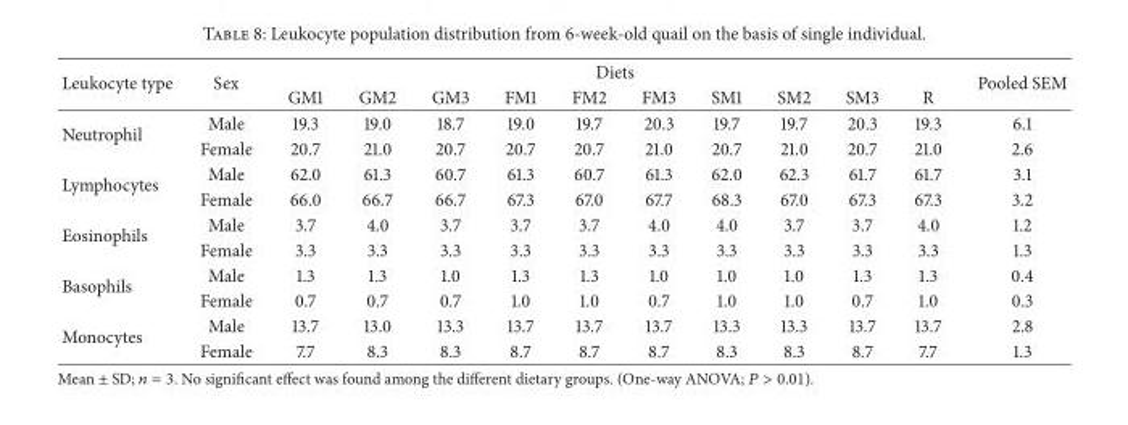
<table><thead><tr><td rowspan="2">Leukocyte type</td><td rowspan="2">Sex</td><td colspan="10">Diets</td><td rowspan="2">Pooled SEM</td></tr><tr><td>GM1</td><td>GM2</td><td>GM3</td><td>FM1</td><td>FM2</td><td>FM3</td><td>SM1</td><td>SM2</td><td>SM3</td><td>R</td></tr></thead><tbody><tr><td rowspan="2">Neutrophil</td><td>Male</td><td>19.3</td><td>19.0</td><td>18.7</td><td>19.0</td><td>19.7</td><td>20.3</td><td>19.7</td><td>19.7</td><td>20.3</td><td>19.3</td><td>6.1</td></tr><tr><td>Female</td><td>20.7</td><td>21.0</td><td>20.7</td><td>20.7</td><td>20.7</td><td>21.0</td><td>20.7</td><td>21.0</td><td>20.7</td><td>21.0</td><td>2.6</td></tr><tr><td rowspan="2">Lymphocytes</td><td>Male</td><td>62.0</td><td>61.3</td><td>60.7</td><td>61.3</td><td>60.7</td><td>61.3</td><td>62.0</td><td>62.3</td><td>61.7</td><td>61.7</td><td>3.1</td></tr><tr><td>Female</td><td>66.0</td><td>66.7</td><td>66.7</td><td>67.3</td><td>67.0</td><td>67.7</td><td>68.3</td><td>67.0</td><td>67.3</td><td>67.3</td><td>3.2</td></tr><tr><td rowspan="2">Eosinophils</td><td>Male</td><td>3.7</td><td>4.0</td><td>3.7</td><td>3.7</td><td>3.7</td><td>4.0</td><td>4.0</td><td>3.7</td><td>3.7</td><td>4.0</td><td>1.2</td></tr><tr><td>Female</td><td>3.3</td><td>3.3</td><td>3.3</td><td>3.3</td><td>3.3</td><td>3.3</td><td>3.3</td><td>3.3</td><td>3.3</td><td>3.3</td><td>1.3</td></tr><tr><td rowspan="2">Basophils</td><td>Male</td><td>1.3</td><td>1.3</td><td>1.0</td><td>1.3</td><td>1.3</td><td>1.0</td><td>1.0</td><td>1.0</td><td>1.3</td><td>1.3</td><td>0.4</td></tr><tr><td>Female</td><td>0.7</td><td>0.7</td><td>0.7</td><td>1.0</td><td>1.0</td><td>0.7</td><td>1.0</td><td>1.0</td><td>0.7</td><td>1.0</td><td>0.3</td></tr><tr><td rowspan="2">Monocytes</td><td>Male</td><td>13.7</td><td>13.0</td><td>13.3</td><td>13.7</td><td>13.7</td><td>13.7</td><td>13.3</td><td>13.3</td><td>13.7</td><td>13.7</td><td>2.8</td></tr><tr><td>Female</td><td>7.7</td><td>8.3</td><td>8.3</td><td>8.7</td><td>8.7</td><td>8.7</td><td>8.3</td><td>8.3</td><td>8.7</td><td>7.7</td><td>1.3</td></tr></tbody></table>